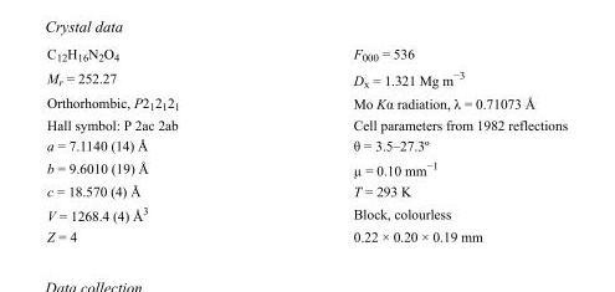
<table><tbody><tr><td>C<sub>12</sub>H<sub>16</sub>N<sub>2</sub>O<sub>4</sub></td><td>F000 = 536</td></tr><tr><td>M<sub>r</sub> = 252.27</td><td>D<sub>x</sub> = 1.321 Mg m<sup>−3</sup></td></tr><tr><td>Orthorhombic, P2<sub>1</sub>2<sub>1</sub>2<sub>1</sub></td><td>Mo Kα radiation, λ = 0.71073 Å</td></tr><tr><td>Hall symbol: P 2ac 2ab</td><td>Cell parameters from 1982 reflections</td></tr><tr><td>a = 7.1140 (14) Å</td><td>θ = 3.5–27.3º</td></tr><tr><td>b = 9.6010 (19) Å</td><td>µ = 0.10 mm<sup>−1</sup></td></tr><tr><td>c = 18.570 (4) Å</td><td>T = 293 K</td></tr><tr><td>V = 1268.4 (4) Å<sup>3</sup></td><td>Block, colourless</td></tr><tr><td>Z = 4</td><td>0.22 × 0.20 × 0.19 mm</td></tr></tbody></table>